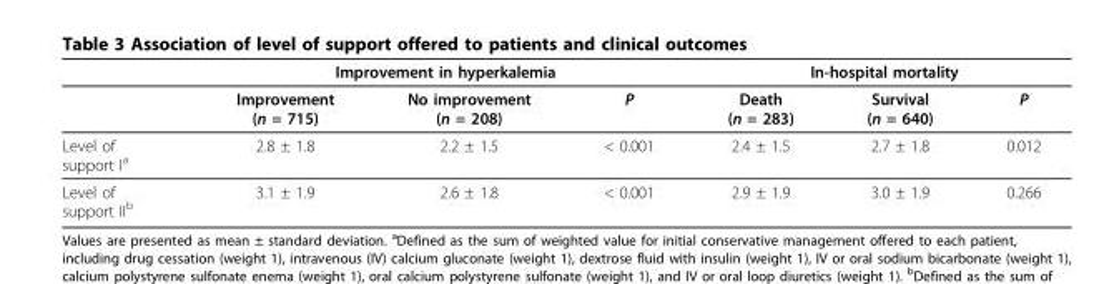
<table><thead><tr><td rowspan="2"></td><td colspan="3">Improvement in hyperkalemia</td><td colspan="3">In-hospital mortality</td></tr><tr><td>Improvement (n = 715)</td><td>No improvement (n = 208)</td><td>P</td><td>Death (n = 283)</td><td>Survival (n = 640)</td><td>P</td></tr></thead><tbody><tr><td>Level of support I<sup>a</sup></td><td>2.8 ± 1.8</td><td>2.2 ± 1.5</td><td>&lt; 0.001</td><td>2.4 ± 1.5</td><td>2.7 ± 1.8</td><td>0.012</td></tr><tr><td>Level of support II<sup>b</sup></td><td>3.1 ± 1.9</td><td>2.6 ± 1.8</td><td>&lt; 0.001</td><td>2.9 ± 1.9</td><td>3.0 ± 1.9</td><td>0.266</td></tr></tbody></table>